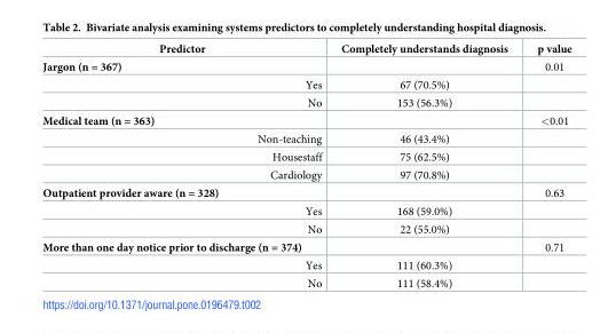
<table><thead><tr><td>Predictor</td><td>Completely understands diagnosis</td><td>p value</td></tr></thead><tbody><tr><td>Jargon (n = 367)</td><td></td><td>0.01</td></tr><tr><td>Yes</td><td>67 (70.5%)</td><td></td></tr><tr><td>No</td><td>153 (56.3%)</td><td></td></tr><tr><td>Medical team (n = 363)</td><td></td><td>&lt;0.01</td></tr><tr><td>Non-teaching</td><td>46 (43.4%)</td><td></td></tr><tr><td>Housestaff</td><td>75 (62.5%)</td><td></td></tr><tr><td>Cardiology</td><td>97 (70.8%)</td><td></td></tr><tr><td>Outpatient provider aware (n = 328)</td><td></td><td>0.63</td></tr><tr><td>Yes</td><td>168 (59.0%)</td><td></td></tr><tr><td>No</td><td>22 (55.0%)</td><td></td></tr><tr><td>More than one day notice prior to discharge (n = 374)</td><td></td><td>0.71</td></tr><tr><td>Yes</td><td>111 (60.3%)</td><td></td></tr><tr><td>No</td><td>111 (58.4%)</td><td></td></tr></tbody></table>